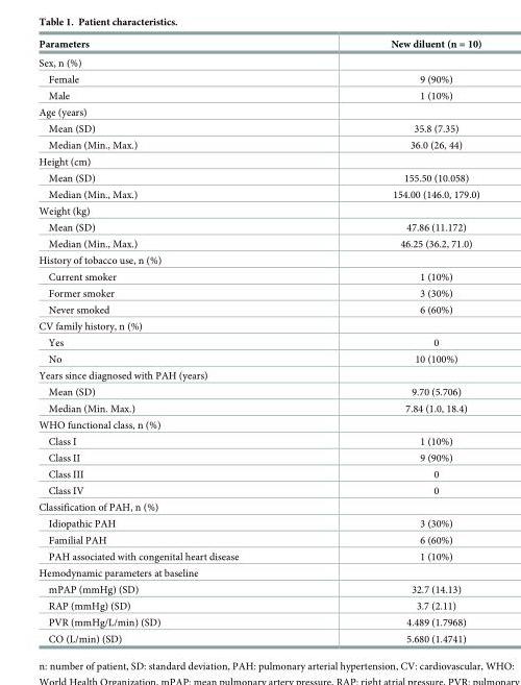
<table><thead><tr><td>Parameters</td><td>New diluent (n = 10)</td></tr></thead><tbody><tr><td colspan="2">Sex, n (%)</td></tr><tr><td>Female</td><td>9 (90%)</td></tr><tr><td>Male</td><td>1 (10%)</td></tr><tr><td colspan="2">Age (years)</td></tr><tr><td>Mean (SD)</td><td>35.8 (7.35)</td></tr><tr><td>Median (Min., Max.)</td><td>36.0 (26, 44)</td></tr><tr><td colspan="2">Height (cm)</td></tr><tr><td>Mean (SD)</td><td>155.50 (10.058)</td></tr><tr><td>Median (Min., Max.)</td><td>154.00 (146.0, 179.0)</td></tr><tr><td colspan="2">Weight (kg)</td></tr><tr><td>Mean (SD)</td><td>47.86 (11.172)</td></tr><tr><td>Median (Min., Max.)</td><td>46.25 (36.2, 71.0)</td></tr><tr><td colspan="2">History of tobacco use, n (%)</td></tr><tr><td>Current smoker</td><td>1 (10%)</td></tr><tr><td>Former smoker</td><td>3 (30%)</td></tr><tr><td>Never smoked</td><td>6 (60%)</td></tr><tr><td colspan="2">CV family history, n (%)</td></tr><tr><td>Yes</td><td>0</td></tr><tr><td>No</td><td>10 (100%)</td></tr><tr><td colspan="2">Years since diagnosed with PAH (years)</td></tr><tr><td>Mean (SD)</td><td>9.70 (5.706)</td></tr><tr><td>Median (Min. Max.)</td><td>7.84 (1.0, 18.4)</td></tr><tr><td colspan="2">WHO functional class, n (%)</td></tr><tr><td>Class I</td><td>1 (10%)</td></tr><tr><td>Class II</td><td>9 (90%)</td></tr><tr><td>Class III</td><td>0</td></tr><tr><td>Class IV</td><td>0</td></tr><tr><td colspan="2">Classification of PAH, n (%)</td></tr><tr><td>Idiopathic PAH</td><td>3 (30%)</td></tr><tr><td>Familial PAH</td><td>6 (60%)</td></tr><tr><td>PAH associated with congenital heart disease</td><td>1 (10%)</td></tr><tr><td colspan="2">Hemodynamic parameters at baseline</td></tr><tr><td>mPAP (mmHg) (SD)</td><td>32.7 (14.13)</td></tr><tr><td>RAP (mmHg) (SD)</td><td>3.7 (2.11)</td></tr><tr><td>PVR (mmHg/L/min) (SD)</td><td>4.489 (1.7968)</td></tr><tr><td>CO (L/min) (SD)</td><td>5.680 (1.4741)</td></tr></tbody></table>